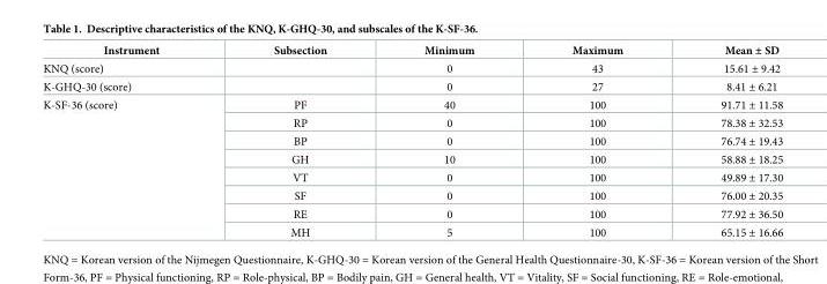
<table><thead><tr><td>Instrument</td><td>Subsection</td><td>Minimum</td><td>Maximum</td><td>Mean ± SD</td></tr></thead><tbody><tr><td>KNQ (score)</td><td></td><td>0</td><td>43</td><td>15.61 ± 9.42</td></tr><tr><td>K-GHQ-30 (score)</td><td></td><td>0</td><td>27</td><td>8.41 ± 6.21</td></tr><tr><td rowspan="8">K-SF-36 (score)</td><td>PF</td><td>40</td><td>100</td><td>91.71 ± 11.58</td></tr><tr><td>RP</td><td>0</td><td>100</td><td>78.38 ± 32.53</td></tr><tr><td>BP</td><td>0</td><td>100</td><td>76.74 ± 19.43</td></tr><tr><td>GH</td><td>10</td><td>100</td><td>58.88 ± 18.25</td></tr><tr><td>VT</td><td>0</td><td>100</td><td>49.89 ± 17.30</td></tr><tr><td>SF</td><td>0</td><td>100</td><td>76.00 ± 20.35</td></tr><tr><td>RE</td><td>0</td><td>100</td><td>77.92 ± 36.50</td></tr><tr><td>MH</td><td>5</td><td>100</td><td>65.15 ± 16.66</td></tr></tbody></table>